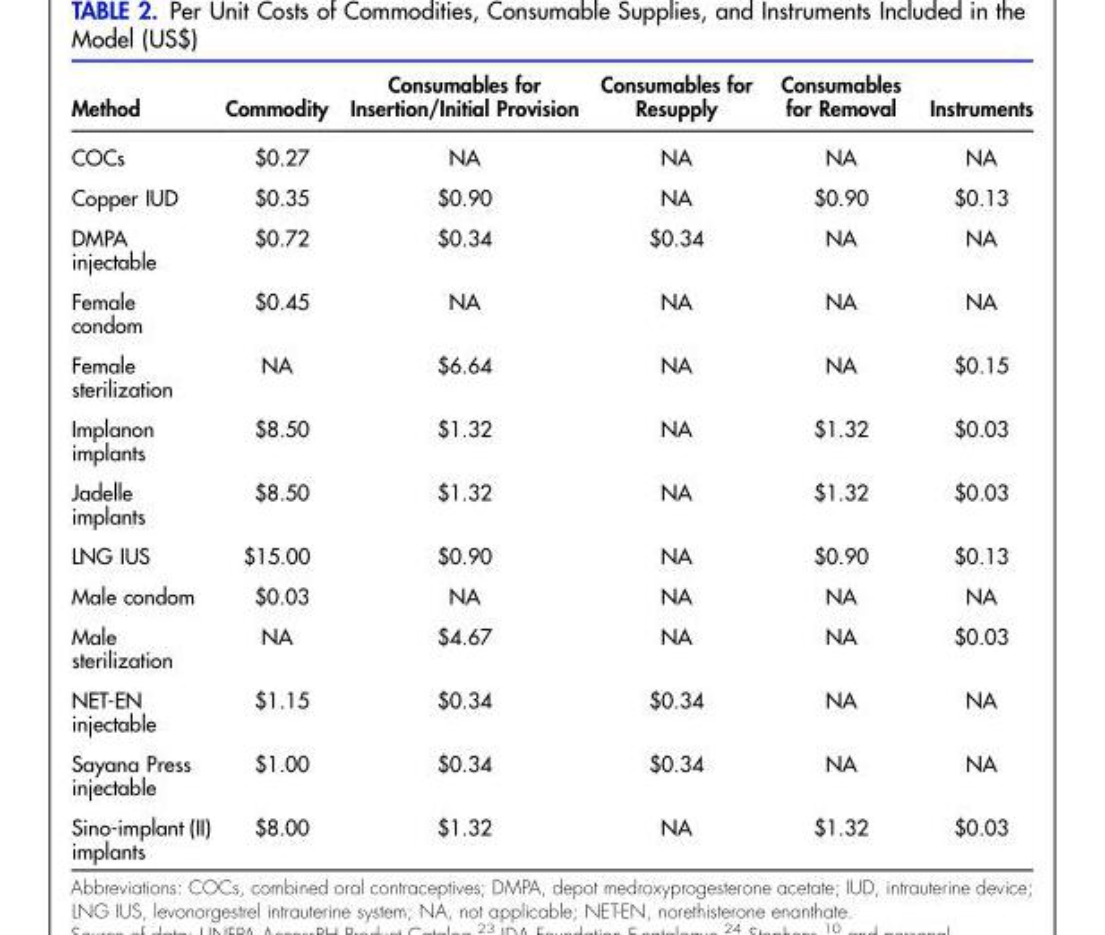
<table><thead><tr><td>Method</td><td>Commodity</td><td>Consumables for Insertion/Initial Provision</td><td>Consumables for Resupply</td><td>Consumables for Removal</td><td>Instruments</td></tr></thead><tbody><tr><td>COCs</td><td>$0.27</td><td>NA</td><td>NA</td><td>NA</td><td>NA</td></tr><tr><td>Copper IUD</td><td>$0.35</td><td>$0.90</td><td>NA</td><td>$0.90</td><td>$0.13</td></tr><tr><td>DMPA injectable</td><td>$0.72</td><td>$0.34</td><td>$0.34</td><td>NA</td><td>NA</td></tr><tr><td>Female condom</td><td>$0.45</td><td>NA</td><td>NA</td><td>NA</td><td>NA</td></tr><tr><td>Female sterilization</td><td>NA</td><td>$6.64</td><td>NA</td><td>NA</td><td>$0.15</td></tr><tr><td>Implanon implants</td><td>$8.50</td><td>$1.32</td><td>NA</td><td>$1.32</td><td>$0.03</td></tr><tr><td>Jadelle implants</td><td>$8.50</td><td>$1.32</td><td>NA</td><td>$1.32</td><td>$0.03</td></tr><tr><td>LNG IUS</td><td>$15.00</td><td>$0.90</td><td>NA</td><td>$0.90</td><td>$0.13</td></tr><tr><td>Male condom</td><td>$0.03</td><td>NA</td><td>NA</td><td>NA</td><td>NA</td></tr><tr><td>Male sterilization</td><td>NA</td><td>$4.67</td><td>NA</td><td>NA</td><td>$0.03</td></tr><tr><td>NET-EN injectable</td><td>$1.15</td><td>$0.34</td><td>$0.34</td><td>NA</td><td>NA</td></tr><tr><td>Sayana Press injectable</td><td>$1.00</td><td>$0.34</td><td>$0.34</td><td>NA</td><td>NA</td></tr><tr><td>Sino-implant (II) implants</td><td>$8.00</td><td>$1.32</td><td>NA</td><td>$1.32</td><td>$0.03</td></tr></tbody></table>